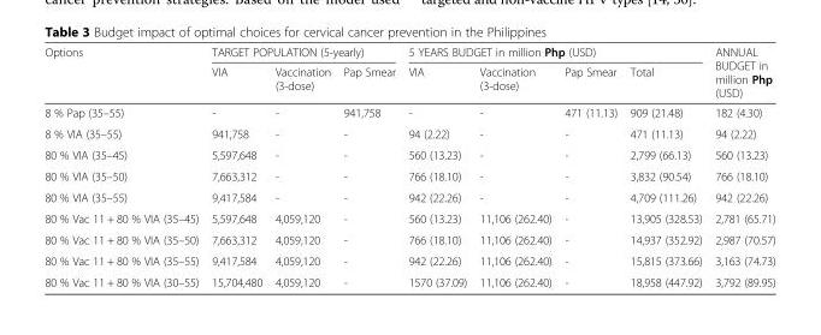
<table><thead><tr><td rowspan="2">Options</td><td colspan="3">TARGET POPULATION (5-yearly)</td><td colspan="4">5 YEARS BUDGET in million Php (USD)</td><td rowspan="2">ANNUAL BUDGET in million Php (USD)</td></tr><tr><td>VIA</td><td>Vaccination (3-dose)</td><td>Pap Smear</td><td>VIA</td><td>Vaccination (3-dose)</td><td>Pap Smear</td><td>Total</td></tr></thead><tbody><tr><td>8 % Pap (35–55)</td><td>-</td><td>-</td><td>941,758</td><td>-</td><td>-</td><td>471 (11.13)</td><td>909 (21.48)</td><td>182 (4.30)</td></tr><tr><td>8 % VIA (35–55)</td><td>941,758</td><td>-</td><td>-</td><td>94 (2.22)</td><td>-</td><td>-</td><td>471 (11.13)</td><td>94 (2.22)</td></tr><tr><td>80 % VIA (35–45)</td><td>5,597,648</td><td>-</td><td>-</td><td>560 (13.23)</td><td>-</td><td>-</td><td>2,799 (66.13)</td><td>560 (13.23)</td></tr><tr><td>80 % VIA (35–50)</td><td>7,663,312</td><td>-</td><td>-</td><td>766 (18.10)</td><td>-</td><td>-</td><td>3,832 (90.54)</td><td>766 (18.10)</td></tr><tr><td>80 % VIA (35–55)</td><td>9,417,584</td><td>-</td><td>-</td><td>942 (22.26)</td><td>-</td><td>-</td><td>4,709 (111.26)</td><td>942 (22.26)</td></tr><tr><td>80 % Vac 11 + 80 % VIA (35–45)</td><td>5,597,648</td><td>4,059,120</td><td>-</td><td>560 (13.23)</td><td>11,106 (262.40)</td><td>-</td><td>13,905 (328.53)</td><td>2,781 (65.71)</td></tr><tr><td>80 % Vac 11 + 80 % VIA (35–50)</td><td>7,663,312</td><td>4,059,120</td><td>-</td><td>766 (18.10)</td><td>11,106 (262.40)</td><td>-</td><td>14,937 (352.92)</td><td>2,987 (70.57)</td></tr><tr><td>80 % Vac 11 + 80 % VIA (35–55)</td><td>9,417,584</td><td>4,059,120</td><td>-</td><td>942 (22.26)</td><td>11,106 (262.40)</td><td>-</td><td>15,815 (373.66)</td><td>3,163 (74.73)</td></tr><tr><td>80 % Vac 11 + 80 % VIA (30–55)</td><td>15,704,480</td><td>4,059,120</td><td>-</td><td>1570 (37.09)</td><td>11,106 (262.40)</td><td>-</td><td>18,958 (447.92)</td><td>3,792 (89.95)</td></tr></tbody></table>